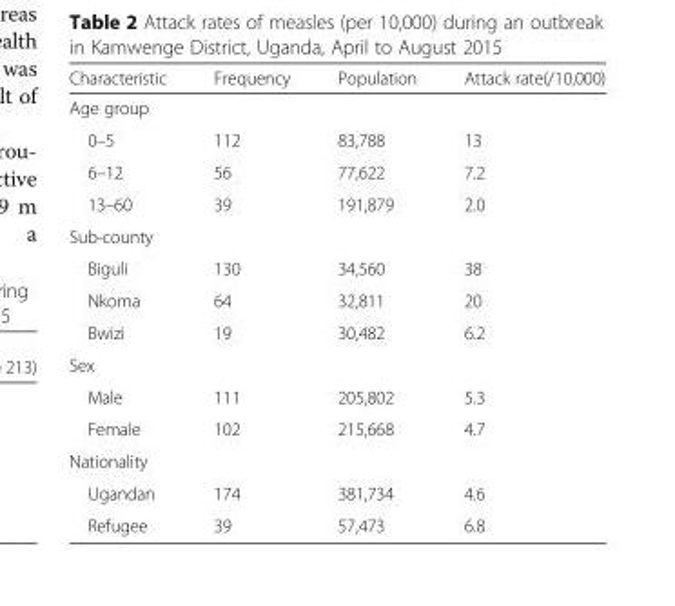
<table><thead><tr><td>Characteristic</td><td>Frequency</td><td>Population</td><td>Attack rate(/10,000)</td></tr></thead><tbody><tr><td colspan="4">Age group</td></tr><tr><td>0–5</td><td>112</td><td>83,788</td><td>13</td></tr><tr><td>6–12</td><td>56</td><td>77,622</td><td>7.2</td></tr><tr><td>13–60</td><td>39</td><td>191,879</td><td>2.0</td></tr><tr><td colspan="4">Sub-county</td></tr><tr><td>Biguli</td><td>130</td><td>34,560</td><td>38</td></tr><tr><td>Nkoma</td><td>64</td><td>32,811</td><td>20</td></tr><tr><td>Bwizi</td><td>19</td><td>30,482</td><td>6.2</td></tr><tr><td colspan="4">Sex</td></tr><tr><td>Male</td><td>111</td><td>205,802</td><td>5.3</td></tr><tr><td>Female</td><td>102</td><td>215,668</td><td>4.7</td></tr><tr><td colspan="4">Nationality</td></tr><tr><td>Ugandan</td><td>174</td><td>381,734</td><td>4.6</td></tr><tr><td>Refugee</td><td>39</td><td>57,473</td><td>6.8</td></tr></tbody></table>